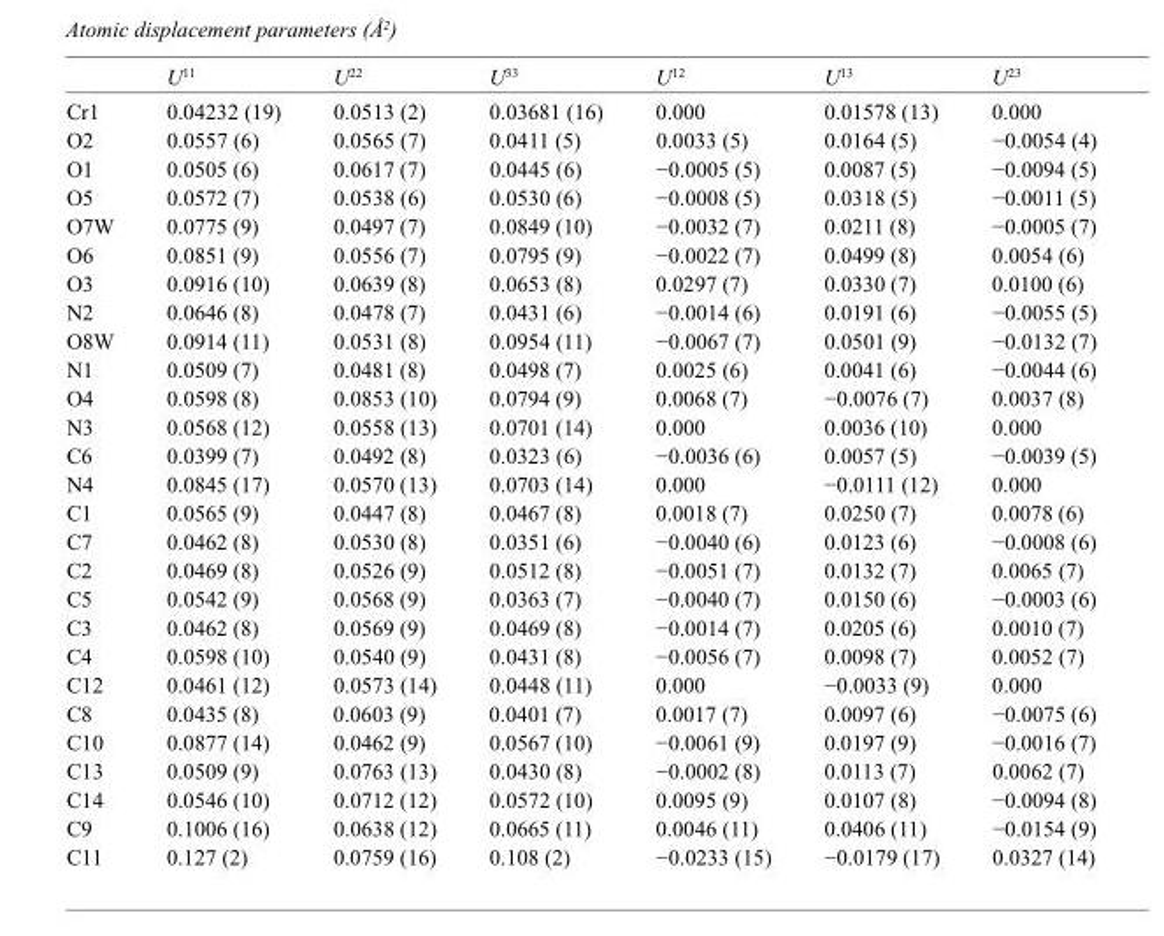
<table><thead><tr><td></td><td>U<sup>11</sup></td><td>U<sup>22</sup></td><td>U<sup>33</sup></td><td>U<sup>12</sup></td><td>U<sup>13</sup></td><td>U<sup>23</sup></td></tr></thead><tbody><tr><td>Cr1</td><td>0.04232 (19)</td><td>0.0513 (2)</td><td>0.03681 (16)</td><td>0.000</td><td>0.01578 (13)</td><td>0.000</td></tr><tr><td>O2</td><td>0.0557 (6)</td><td>0.0565 (7)</td><td>0.0411 (5)</td><td>0.0033 (5)</td><td>0.0164 (5)</td><td>−0.0054 (4)</td></tr><tr><td>O1</td><td>0.0505 (6)</td><td>0.0617 (7)</td><td>0.0445 (6)</td><td>−0.0005 (5)</td><td>0.0087 (5)</td><td>−0.0094 (5)</td></tr><tr><td>O5</td><td>0.0572 (7)</td><td>0.0538 (6)</td><td>0.0530 (6)</td><td>−0.0008 (5)</td><td>0.0318 (5)</td><td>−0.0011 (5)</td></tr><tr><td>O7W</td><td>0.0775 (9)</td><td>0.0497 (7)</td><td>0.0849 (10)</td><td>−0.0032 (7)</td><td>0.0211 (8)</td><td>−0.0005 (7)</td></tr><tr><td>O6</td><td>0.0851 (9)</td><td>0.0556 (7)</td><td>0.0795 (9)</td><td>−0.0022 (7)</td><td>0.0499 (8)</td><td>0.0054 (6)</td></tr><tr><td>O3</td><td>0.0916 (10)</td><td>0.0639 (8)</td><td>0.0653 (8)</td><td>0.0297 (7)</td><td>0.0330 (7)</td><td>0.0100 (6)</td></tr><tr><td>N2</td><td>0.0646 (8)</td><td>0.0478 (7)</td><td>0.0431 (6)</td><td>−0.0014 (6)</td><td>0.0191 (6)</td><td>−0.0055 (5)</td></tr><tr><td>O8W</td><td>0.0914 (11)</td><td>0.0531 (8)</td><td>0.0954 (11)</td><td>−0.0067 (7)</td><td>0.0501 (9)</td><td>−0.0132 (7)</td></tr><tr><td>N1</td><td>0.0509 (7)</td><td>0.0481 (8)</td><td>0.0498 (7)</td><td>0.0025 (6)</td><td>0.0041 (6)</td><td>−0.0044 (6)</td></tr><tr><td>O4</td><td>0.0598 (8)</td><td>0.0853 (10)</td><td>0.0794 (9)</td><td>0.0068 (7)</td><td>−0.0076 (7)</td><td>0.0037 (8)</td></tr><tr><td>N3</td><td>0.0568 (12)</td><td>0.0558 (13)</td><td>0.0701 (14)</td><td>0.000</td><td>0.0036 (10)</td><td>0.000</td></tr><tr><td>C6</td><td>0.0399 (7)</td><td>0.0492 (8)</td><td>0.0323 (6)</td><td>−0.0036 (6)</td><td>0.0057 (5)</td><td>−0.0039 (5)</td></tr><tr><td>N4</td><td>0.0845 (17)</td><td>0.0570 (13)</td><td>0.0703 (14)</td><td>0.000</td><td>−0.0111 (12)</td><td>0.000</td></tr><tr><td>C1</td><td>0.0565 (9)</td><td>0.0447 (8)</td><td>0.0467 (8)</td><td>0.0018 (7)</td><td>0.0250 (7)</td><td>0.0078 (6)</td></tr><tr><td>C7</td><td>0.0462 (8)</td><td>0.0530 (8)</td><td>0.0351 (6)</td><td>−0.0040 (6)</td><td>0.0123 (6)</td><td>−0.0008 (6)</td></tr><tr><td>C2</td><td>0.0469 (8)</td><td>0.0526 (9)</td><td>0.0512 (8)</td><td>−0.0051 (7)</td><td>0.0132 (7)</td><td>0.0065 (7)</td></tr><tr><td>C5</td><td>0.0542 (9)</td><td>0.0568 (9)</td><td>0.0363 (7)</td><td>−0.0040 (7)</td><td>0.0150 (6)</td><td>−0.0003 (6)</td></tr><tr><td>C3</td><td>0.0462 (8)</td><td>0.0569 (9)</td><td>0.0469 (8)</td><td>−0.0014 (7)</td><td>0.0205 (6)</td><td>0.0010 (7)</td></tr><tr><td>C4</td><td>0.0598 (10)</td><td>0.0540 (9)</td><td>0.0431 (8)</td><td>−0.0056 (7)</td><td>0.0098 (7)</td><td>0.0052 (7)</td></tr><tr><td>C12</td><td>0.0461 (12)</td><td>0.0573 (14)</td><td>0.0448 (11)</td><td>0.000</td><td>−0.0033 (9)</td><td>0.000</td></tr><tr><td>C8</td><td>0.0435 (8)</td><td>0.0603 (9)</td><td>0.0401 (7)</td><td>0.0017 (7)</td><td>0.0097 (6)</td><td>−0.0075 (6)</td></tr><tr><td>C10</td><td>0.0877 (14)</td><td>0.0462 (9)</td><td>0.0567 (10)</td><td>−0.0061 (9)</td><td>0.0197 (9)</td><td>−0.0016 (7)</td></tr><tr><td>C13</td><td>0.0509 (9)</td><td>0.0763 (13)</td><td>0.0430 (8)</td><td>−0.0002 (8)</td><td>0.0113 (7)</td><td>0.0062 (7)</td></tr><tr><td>C14</td><td>0.0546 (10)</td><td>0.0712 (12)</td><td>0.0572 (10)</td><td>0.0095 (9)</td><td>0.0107 (8)</td><td>−0.0094 (8)</td></tr><tr><td>C9</td><td>0.1006 (16)</td><td>0.0638 (12)</td><td>0.0665 (11)</td><td>0.0046 (11)</td><td>0.0406 (11)</td><td>−0.0154 (9)</td></tr><tr><td>C11</td><td>0.127 (2)</td><td>0.0759 (16)</td><td>0.108 (2)</td><td>−0.0233 (15)</td><td>−0.0179 (17)</td><td>0.0327 (14)</td></tr></tbody></table>